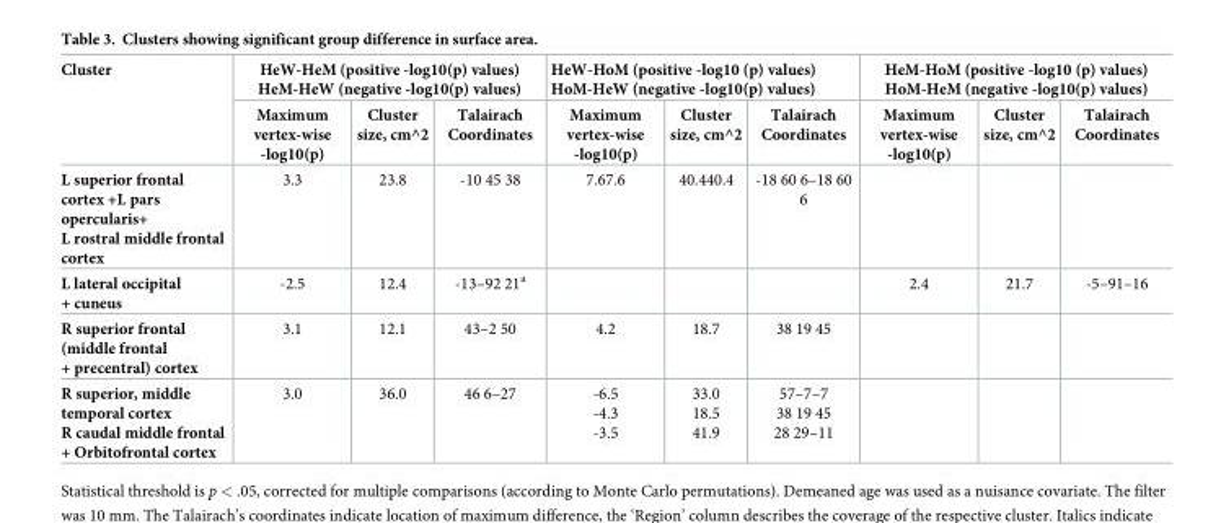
<table><thead><tr><td rowspan="2">Cluster</td><td colspan="3">HeW-HeM (positive -log10(p) values) HeM-HeW (negative -log10(p) values)</td><td colspan="3">HeW-HoM (positive -log10 (p) values) HoM-HeW (negative -log10(p) values)</td><td colspan="3">HeM-HoM (positive -log10 (p) values) HoM-HeM (negative -log10(p) values)</td></tr><tr><td>Maximum vertex-wise -log10(p)</td><td>Cluster size, cm^2</td><td>Talairach Coordinates</td><td>Maximum vertex-wise -log10(p)</td><td>Cluster size, cm^2</td><td>Talairach Coordinates</td><td>Maximum vertex-wise -log10(p)</td><td>Cluster size, cm^2</td><td>Talairach Coordinates</td></tr></thead><tbody><tr><td>L superior frontal cortex +L pars opercularis+ L rostral middle frontal cortex</td><td>3.3</td><td>23.8</td><td>-10 45 38</td><td>7.67.6</td><td>40.440.4</td><td>-18 60 6–18 60 6</td><td></td><td></td><td></td></tr><tr><td>L lateral occipital + cuneus</td><td>-2.5</td><td>12.4</td><td>-13–92 21<sup>a</sup></td><td></td><td></td><td></td><td>2.4</td><td>21.7</td><td>-5–91–16</td></tr><tr><td>R superior frontal (middle frontal + precentral) cortex</td><td>3.1</td><td>12.1</td><td>43–2 50</td><td>4.2</td><td>18.7</td><td>38 19 45</td><td></td><td></td><td></td></tr><tr><td>R superior, middle temporal cortex R caudal middle frontal + Orbitofrontal cortex</td><td>3.0</td><td>36.0</td><td>46 6–27</td><td>-6.5 -4.3 -3.5</td><td>33.0 18.5 41.9</td><td>57–7–7 38 19 45 28 29–11</td><td></td><td></td><td></td></tr></tbody></table>